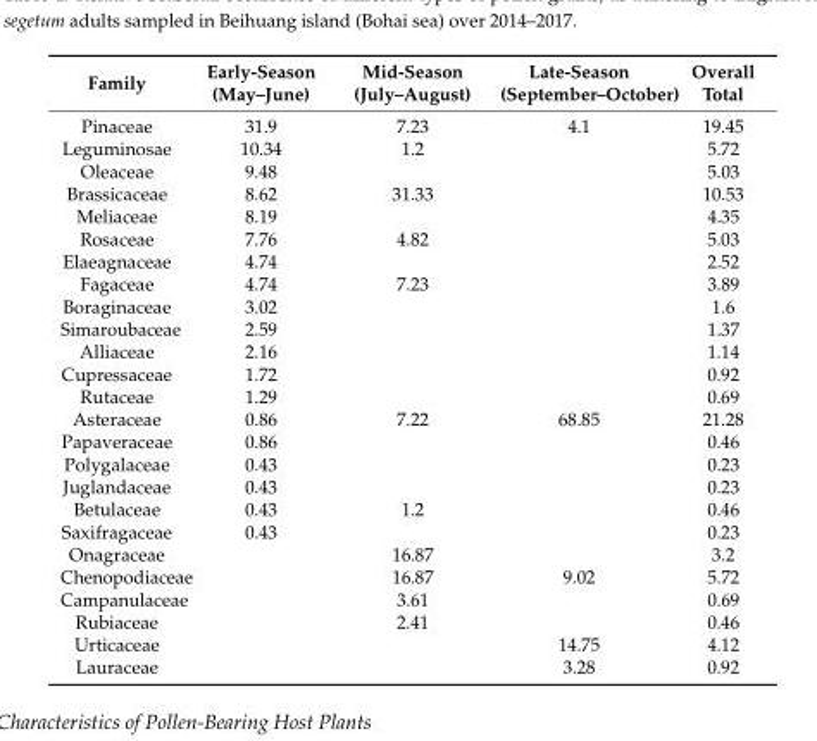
<table><thead><tr><td>Family</td><td>Early-Season (May–June)</td><td>Mid-Season (July–August)</td><td>Late-Season (September–October)</td><td>Overall Total</td></tr></thead><tbody><tr><td>Pinaceae</td><td>31.9</td><td>7.23</td><td>4.1</td><td>19.45</td></tr><tr><td>Leguminosae</td><td>10.34</td><td>1.2</td><td></td><td>5.72</td></tr><tr><td>Oleaceae</td><td>9.48</td><td></td><td></td><td>5.03</td></tr><tr><td>Brassicaceae</td><td>8.62</td><td>31.33</td><td></td><td>10.53</td></tr><tr><td>Meliaceae</td><td>8.19</td><td></td><td></td><td>4.35</td></tr><tr><td>Rosaceae</td><td>7.76</td><td>4.82</td><td></td><td>5.03</td></tr><tr><td>Elaeagnaceae</td><td>4.74</td><td></td><td></td><td>2.52</td></tr><tr><td>Fagaceae</td><td>4.74</td><td>7.23</td><td></td><td>3.89</td></tr><tr><td>Boraginaceae</td><td>3.02</td><td></td><td></td><td>1.6</td></tr><tr><td>Simaroubaceae</td><td>2.59</td><td></td><td></td><td>1.37</td></tr><tr><td>Alliaceae</td><td>2.16</td><td></td><td></td><td>1.14</td></tr><tr><td>Cupressaceae</td><td>1.72</td><td></td><td></td><td>0.92</td></tr><tr><td>Rutaceae</td><td>1.29</td><td></td><td></td><td>0.69</td></tr><tr><td>Asteraceae</td><td>0.86</td><td>7.22</td><td>68.85</td><td>21.28</td></tr><tr><td>Papaveraceae</td><td>0.86</td><td></td><td></td><td>0.46</td></tr><tr><td>Polygalaceae</td><td>0.43</td><td></td><td></td><td>0.23</td></tr><tr><td>Juglandaceae</td><td>0.43</td><td></td><td></td><td>0.23</td></tr><tr><td>Betulaceae</td><td>0.43</td><td>1.2</td><td></td><td>0.46</td></tr><tr><td>Saxifragaceae</td><td>0.43</td><td></td><td></td><td>0.23</td></tr><tr><td>Onagraceae</td><td></td><td>16.87</td><td></td><td>3.2</td></tr><tr><td>Chenopodiaceae</td><td></td><td>16.87</td><td>9.02</td><td>5.72</td></tr><tr><td>Campanulaceae</td><td></td><td>3.61</td><td></td><td>0.69</td></tr><tr><td>Rubiaceae</td><td></td><td>2.41</td><td></td><td>0.46</td></tr><tr><td>Urticaceae</td><td></td><td></td><td>14.75</td><td>4.12</td></tr><tr><td>Lauraceae</td><td></td><td></td><td>3.28</td><td>0.92</td></tr></tbody></table>